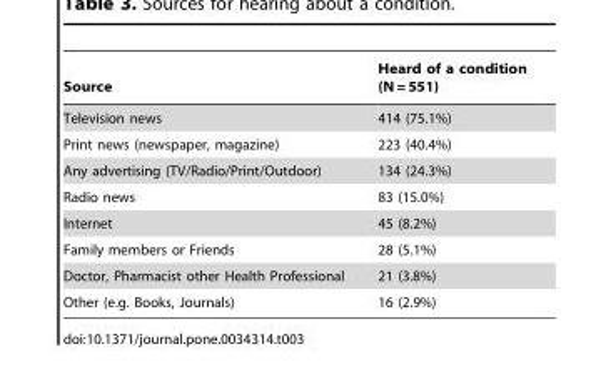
<table><thead><tr><td>Source</td><td>Heard of a condition (N = 551)</td></tr></thead><tbody><tr><td>Television news</td><td>414 (75.1%)</td></tr><tr><td>Print news (newspaper, magazine)</td><td>223 (40.4%)</td></tr><tr><td>Any advertising (TV/Radio/Print/Outdoor)</td><td>134 (24.3%)</td></tr><tr><td>Radio news</td><td>83 (15.0%)</td></tr><tr><td>Internet</td><td>45 (8.2%)</td></tr><tr><td>Family members or Friends</td><td>28 (5.1%)</td></tr><tr><td>Doctor, Pharmacist other Health Professional</td><td>21 (3.8%)</td></tr><tr><td>Other (e.g. Books, Journals)</td><td>16 (2.9%)</td></tr></tbody></table>